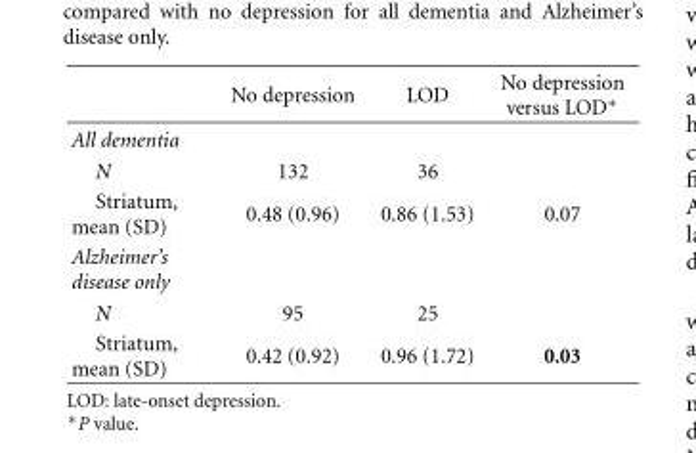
<table><thead><tr><td></td><td>No depression</td><td>LOD</td><td>No depression versus LOD∗</td></tr></thead><tbody><tr><td colspan="4">All dementia</td></tr><tr><td>N</td><td>132</td><td>36</td><td></td></tr><tr><td>Striatum, mean (SD)</td><td>0.48 (0.96)</td><td>0.86 (1.53)</td><td>0.07</td></tr><tr><td colspan="4">Alzheimer’s disease only</td></tr><tr><td>N</td><td>95</td><td>25</td><td></td></tr><tr><td>Striatum, mean (SD)</td><td>0.42 (0.92)</td><td>0.96 (1.72)</td><td>0.03</td></tr></tbody></table>